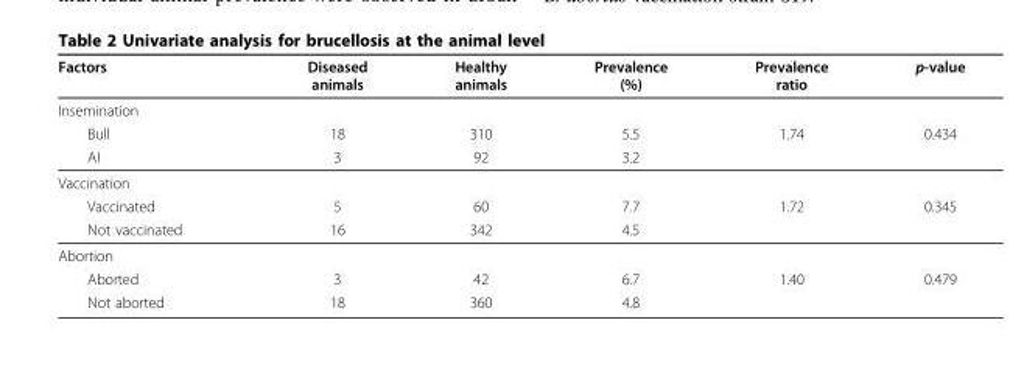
<table><thead><tr><td>Factors</td><td>Diseased animals</td><td>Healthy animals</td><td>Prevalence (%)</td><td>Prevalence ratio</td><td>p-value</td></tr></thead><tbody><tr><td colspan="6">Insemination</td></tr><tr><td>Bull</td><td>18</td><td>310</td><td>5.5</td><td>1.74</td><td>0.434</td></tr><tr><td>AI</td><td>3</td><td>92</td><td>3.2</td><td></td><td></td></tr><tr><td colspan="6">Vaccination</td></tr><tr><td>Vaccinated</td><td>5</td><td>60</td><td>7.7</td><td>1.72</td><td>0.345</td></tr><tr><td>Not vaccinated</td><td>16</td><td>342</td><td>4.5</td><td></td><td></td></tr><tr><td colspan="6">Abortion</td></tr><tr><td>Aborted</td><td>3</td><td>42</td><td>6.7</td><td>1.40</td><td>0.479</td></tr><tr><td>Not aborted</td><td>18</td><td>360</td><td>4.8</td><td></td><td></td></tr></tbody></table>